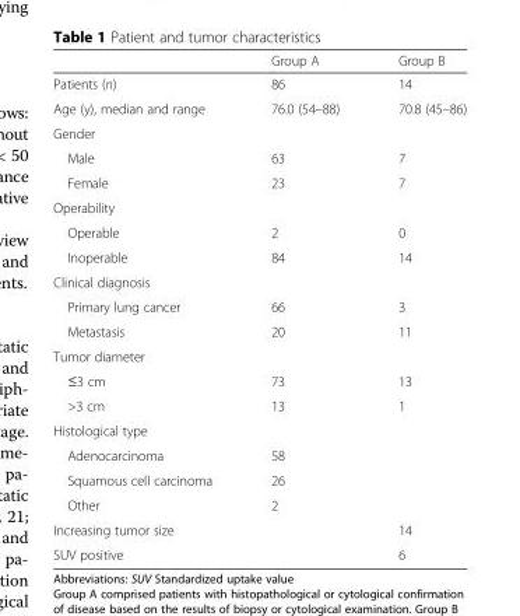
<table><thead><tr><td></td><td>Group A</td><td>Group B</td></tr></thead><tbody><tr><td>Patients (n)</td><td>86</td><td>14</td></tr><tr><td>Age (y), median and range</td><td>76.0 (54–88)</td><td>70.8 (45–86)</td></tr><tr><td colspan="3">Gender</td></tr><tr><td>Male</td><td>63</td><td>7</td></tr><tr><td>Female</td><td>23</td><td>7</td></tr><tr><td colspan="3">Operability</td></tr><tr><td>Operable</td><td>2</td><td>0</td></tr><tr><td>Inoperable</td><td>84</td><td>14</td></tr><tr><td colspan="3">Clinical diagnosis</td></tr><tr><td>Primary lung cancer</td><td>66</td><td>3</td></tr><tr><td>Metastasis</td><td>20</td><td>11</td></tr><tr><td colspan="3">Tumor diameter</td></tr><tr><td>≤3 cm</td><td>73</td><td>13</td></tr><tr><td>&gt;3 cm</td><td>13</td><td>1</td></tr><tr><td colspan="3">Histological type</td></tr><tr><td>Adenocarcinoma</td><td>58</td><td></td></tr><tr><td>Squamous cell carcinoma</td><td>26</td><td></td></tr><tr><td>Other</td><td>2</td><td></td></tr><tr><td>Increasing tumor size</td><td></td><td>14</td></tr><tr><td>SUV positive</td><td></td><td>6</td></tr></tbody></table>